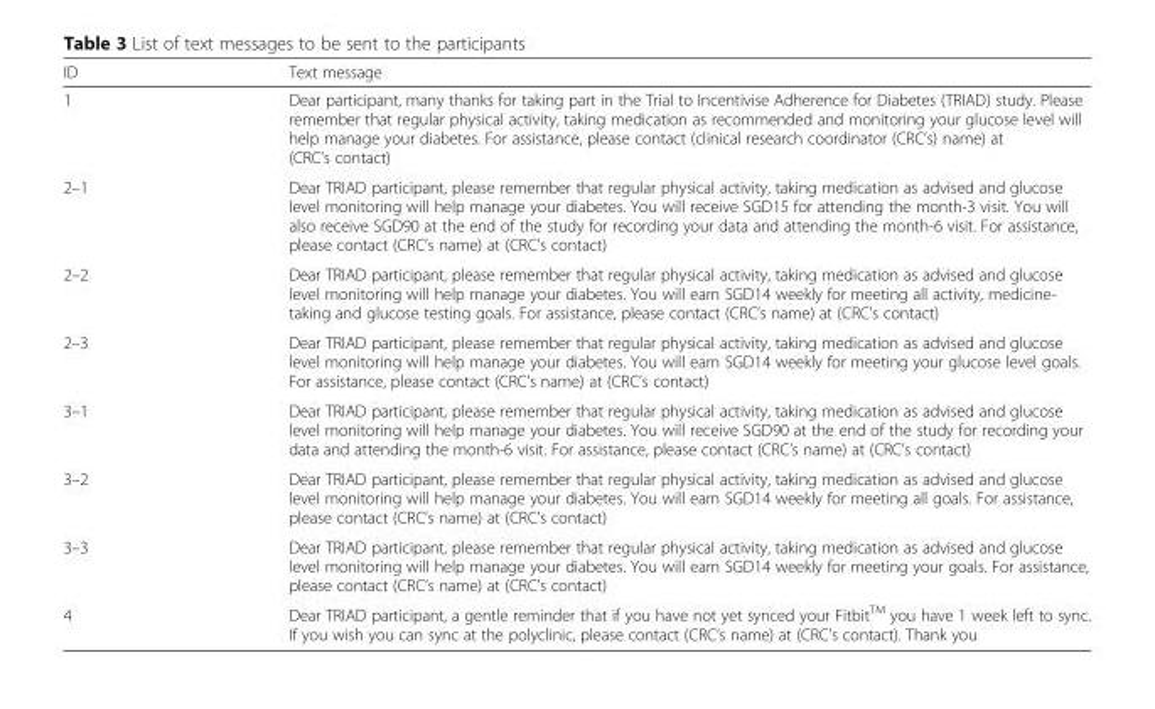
<table><thead><tr><td>ID</td><td>Text message</td></tr></thead><tbody><tr><td>1</td><td>Dear participant, many thanks for taking part in the Trial to Incentivise Adherence for Diabetes (TRIAD) study. Please remember that regular physical activity, taking medication as recommended and monitoring your glucose level will help manage your diabetes. For assistance, please contact (clinical research coordinator (CRC’s) name) at (CRC’s contact)</td></tr><tr><td>2–1</td><td>Dear TRIAD participant, please remember that regular physical activity, taking medication as advised and glucose level monitoring will help manage your diabetes. You will receive SGD15 for attending the month-3 visit. You will also receive SGD90 at the end of the study for recording your data and attending the month-6 visit. For assistance, please contact (CRC’s name) at (CRC’s contact)</td></tr><tr><td>2–2</td><td>Dear TRIAD participant, please remember that regular physical activity, taking medication as advised and glucose level monitoring will help manage your diabetes. You will earn SGD14 weekly for meeting all activity, medicine- taking and glucose testing goals. For assistance, please contact (CRC’s name) at (CRC’s contact)</td></tr><tr><td>2–3</td><td>Dear TRIAD participant, please remember that regular physical activity, taking medication as advised and glucose level monitoring will help manage your diabetes. You will earn SGD14 weekly for meeting your glucose level goals. For assistance, please contact (CRC’s name) at (CRC’s contact)</td></tr><tr><td>3–1</td><td>Dear TRIAD participant, please remember that regular physical activity, taking medication as advised and glucose level monitoring will help manage your diabetes. You will receive SGD90 at the end of the study for recording your data and attending the month-6 visit. For assistance, please contact (CRC’s name) at (CRC’s contact)</td></tr><tr><td>3–2</td><td>Dear TRIAD participant, please remember that regular physical activity, taking medication as advised and glucose level monitoring will help manage your diabetes. You will earn SGD14 weekly for meeting all goals. For assistance, please contact (CRC’s name) at (CRC’s contact)</td></tr><tr><td>3–3</td><td>Dear TRIAD participant, please remember that regular physical activity, taking medication as advised and glucose level monitoring will help manage your diabetes. You will earn SGD14 weekly for meeting your goals. For assistance, please contact (CRC’s name) at (CRC’s contact)</td></tr><tr><td>4</td><td>Dear TRIAD participant, a gentle reminder that if you have not yet synced your Fitbit<sup>TM</sup> you have 1 week left to sync. If you wish you can sync at the polyclinic, please contact (CRC’s name) at (CRC’s contact). Thank you</td></tr></tbody></table>